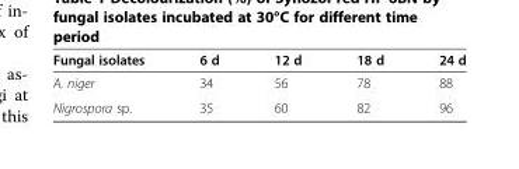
<table><thead><tr><td>Fungal isolates</td><td>6 d</td><td>12 d</td><td>18 d</td><td>24 d</td></tr></thead><tbody><tr><td>A. niger</td><td>34</td><td>56</td><td>78</td><td>88</td></tr><tr><td>Nigrospora sp.</td><td>35</td><td>60</td><td>82</td><td>96</td></tr></tbody></table>